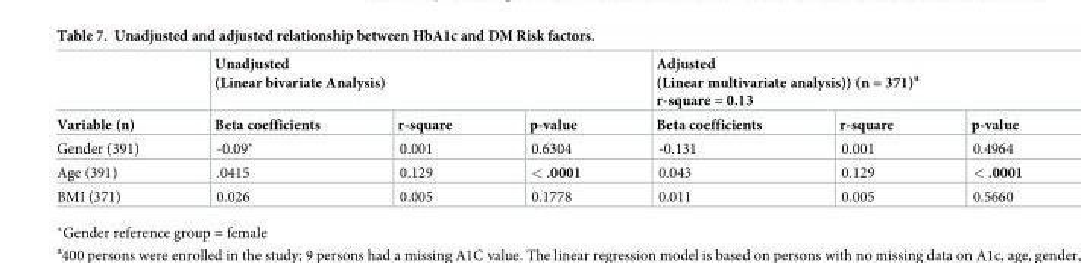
<table><thead><tr><td rowspan="2">Variable (n)</td><td colspan="3">Unadjusted (Linear bivariate Analysis)</td><td colspan="3">Adjusted (Linear multivariate analysis)) (n = 371)<sup>a</sup> r-square = 0.13</td></tr><tr><td>Beta coefficients</td><td>r-square</td><td>p-value</td><td>Beta coefficients</td><td>r-square</td><td>p-value</td></tr></thead><tbody><tr><td>Gender (391)</td><td>-0.09*</td><td>0.001</td><td>0.6304</td><td>-0.131</td><td>0.001</td><td>0.4964</td></tr><tr><td>Age (391)</td><td>.0415</td><td>0.129</td><td>&lt; .0001</td><td>0.043</td><td>0.129</td><td>&lt; .0001</td></tr><tr><td>BMI (371)</td><td>0.026</td><td>0.005</td><td>0.1778</td><td>0.011</td><td>0.005</td><td>0.5660</td></tr></tbody></table>